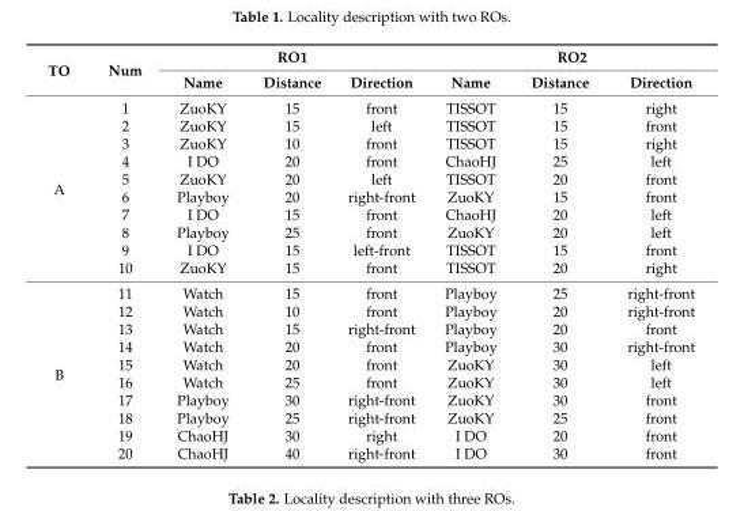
<table><thead><tr><td rowspan="2">TO</td><td rowspan="2">Num</td><td colspan="3">RO1</td><td colspan="3">RO2</td></tr><tr><td>Name</td><td>Distance</td><td>Direction</td><td>Name</td><td>Distance</td><td>Direction</td></tr></thead><tbody><tr><td rowspan="10">A</td><td>1</td><td>ZuoKY</td><td>15</td><td>front</td><td>TISSOT</td><td>15</td><td>right</td></tr><tr><td>2</td><td>ZuoKY</td><td>15</td><td>left</td><td>TISSOT</td><td>15</td><td>front</td></tr><tr><td>3</td><td>ZuoKY</td><td>10</td><td>front</td><td>TISSOT</td><td>15</td><td>right</td></tr><tr><td>4</td><td>I DO</td><td>20</td><td>front</td><td>ChaoHJ</td><td>25</td><td>left</td></tr><tr><td>5</td><td>ZuoKY</td><td>20</td><td>left</td><td>TISSOT</td><td>20</td><td>front</td></tr><tr><td>6</td><td>Playboy</td><td>20</td><td>right-front</td><td>ZuoKY</td><td>15</td><td>front</td></tr><tr><td>7</td><td>I DO</td><td>15</td><td>front</td><td>ChaoHJ</td><td>20</td><td>left</td></tr><tr><td>8</td><td>Playboy</td><td>25</td><td>front</td><td>ZuoKY</td><td>20</td><td>left</td></tr><tr><td>9</td><td>I DO</td><td>15</td><td>left-front</td><td>TISSOT</td><td>15</td><td>front</td></tr><tr><td>10</td><td>ZuoKY</td><td>15</td><td>front</td><td>TISSOT</td><td>20</td><td>right</td></tr><tr><td rowspan="10">B</td><td>11</td><td>Watch</td><td>15</td><td>front</td><td>Playboy</td><td>25</td><td>right-front</td></tr><tr><td>12</td><td>Watch</td><td>10</td><td>front</td><td>Playboy</td><td>20</td><td>right-front</td></tr><tr><td>13</td><td>Watch</td><td>15</td><td>right-front</td><td>Playboy</td><td>20</td><td>front</td></tr><tr><td>14</td><td>Watch</td><td>20</td><td>front</td><td>Playboy</td><td>30</td><td>right-front</td></tr><tr><td>15</td><td>Watch</td><td>20</td><td>front</td><td>ZuoKY</td><td>30</td><td>left</td></tr><tr><td>16</td><td>Watch</td><td>25</td><td>front</td><td>ZuoKY</td><td>30</td><td>left</td></tr><tr><td>17</td><td>Playboy</td><td>30</td><td>right-front</td><td>ZuoKY</td><td>30</td><td>front</td></tr><tr><td>18</td><td>Playboy</td><td>25</td><td>right-front</td><td>ZuoKY</td><td>25</td><td>front</td></tr><tr><td>19</td><td>ChaoHJ</td><td>30</td><td>right</td><td>I DO</td><td>20</td><td>front</td></tr><tr><td>20</td><td>ChaoHJ</td><td>40</td><td>right-front</td><td>I DO</td><td>30</td><td>front</td></tr></tbody></table>